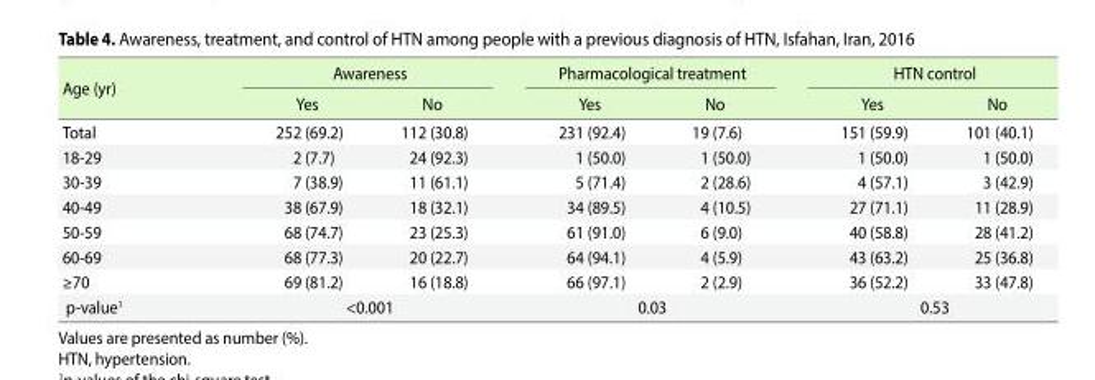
<table><thead><tr><td rowspan="2">Age (yr)</td><td colspan="2">Awareness</td><td colspan="2">Pharmacological treatment</td><td colspan="2">HTN control</td></tr><tr><td>Yes</td><td>No</td><td>Yes</td><td>No</td><td>Yes</td><td>No</td></tr></thead><tbody><tr><td>Total</td><td>252 (69.2)</td><td>112 (30.8)</td><td>231 (92.4)</td><td>19 (7.6)</td><td>151 (59.9)</td><td>101 (40.1)</td></tr><tr><td>18-29</td><td>2 (7.7)</td><td>24 (92.3)</td><td>1 (50.0)</td><td>1 (50.0)</td><td>1 (50.0)</td><td>1 (50.0)</td></tr><tr><td>30-39</td><td>7 (38.9)</td><td>11 (61.1)</td><td>5 (71.4)</td><td>2 (28.6)</td><td>4 (57.1)</td><td>3 (42.9)</td></tr><tr><td>40-49</td><td>38 (67.9)</td><td>18 (32.1)</td><td>34 (89.5)</td><td>4 (10.5)</td><td>27 (71.1)</td><td>11 (28.9)</td></tr><tr><td>50-59</td><td>68 (74.7)</td><td>23 (25.3)</td><td>61 (91.0)</td><td>6 (9.0)</td><td>40 (58.8)</td><td>28 (41.2)</td></tr><tr><td>60-69</td><td>68 (77.3)</td><td>20 (22.7)</td><td>64 (94.1)</td><td>4 (5.9)</td><td>43 (63.2)</td><td>25 (36.8)</td></tr><tr><td>≥70</td><td>69 (81.2)</td><td>16 (18.8)</td><td>66 (97.1)</td><td>2 (2.9)</td><td>36 (52.2)</td><td>33 (47.8)</td></tr><tr><td>p-value<sup>1</sup></td><td colspan="2">&lt;0.001</td><td colspan="2">0.03</td><td colspan="2">0.53</td></tr></tbody></table>